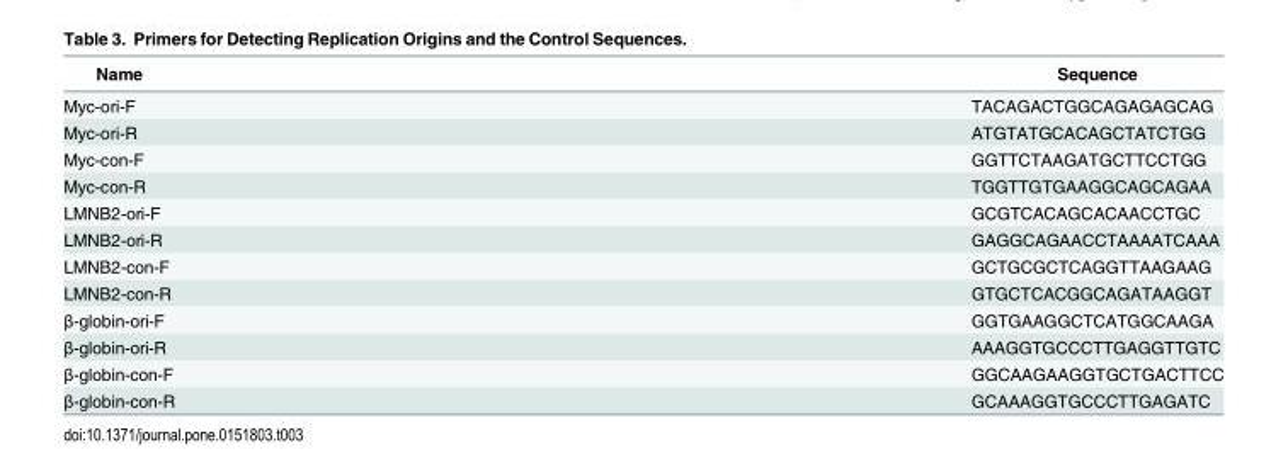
<table><thead><tr><td>Name</td><td>Sequence</td></tr></thead><tbody><tr><td>Myc-ori-F</td><td>TACAGACTGGCAGAGAGCAG</td></tr><tr><td>Myc-ori-R</td><td>ATGTATGCACAGCTATCTGG</td></tr><tr><td>Myc-con-F</td><td>GGTTCTAAGATGCTTCCTGG</td></tr><tr><td>Myc-con-R</td><td>TGGTTGTGAAGGCAGCAGAA</td></tr><tr><td>LMNB2-ori-F</td><td>GCGTCACAGCACAACCTGC</td></tr><tr><td>LMNB2-ori-R</td><td>GAGGCAGAACCTAAAATCAAA</td></tr><tr><td>LMNB2-con-F</td><td>GCTGCGCTCAGGTTAAGAAG</td></tr><tr><td>LMNB2-con-R</td><td>GTGCTCACGGCAGATAAGGT</td></tr><tr><td>β-globin-ori-F</td><td>GGTGAAGGCTCATGGCAAGA</td></tr><tr><td>β-globin-ori-R</td><td>AAAGGTGCCCTTGAGGTTGTC</td></tr><tr><td>β-globin-con-F</td><td>GGCAAGAAGGTGCTGACTTCC</td></tr><tr><td>β-globin-con-R</td><td>GCAAAGGTGCCCTTGAGATC</td></tr></tbody></table>